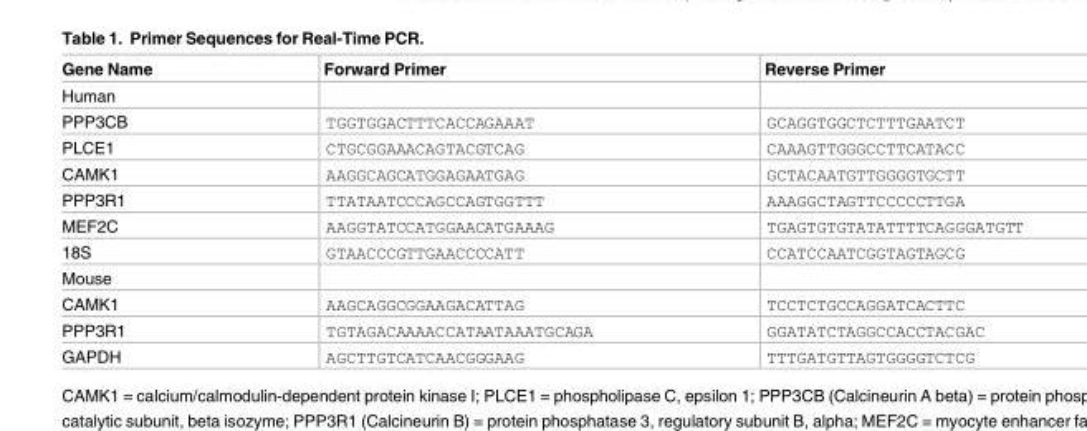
<table><thead><tr><td>Gene Name</td><td>Forward Primer</td><td>Reverse Primer</td></tr></thead><tbody><tr><td colspan="3">Human</td></tr><tr><td>PPP3CB</td><td>TGGTGGACTTTCACCAGAAAT</td><td>GCAGGTGGCTCTTTGAATCT</td></tr><tr><td>PLCE1</td><td>CTGCGGAAACAGTACGTCAG</td><td>CAAAGTTGGGCCTTCATACC</td></tr><tr><td>CAMK1</td><td>AAGGCAGCATGGAGAATGAG</td><td>GCTACAATGTTGGGGTGCTT</td></tr><tr><td>PPP3R1</td><td>TTATAATCCCAGCCAGTGGTTT</td><td>AAAGGCTAGTTCCCCCTTGA</td></tr><tr><td>MEF2C</td><td>AAGGTATCCATGGAACATGAAAG</td><td>TGAGTGTGTATATTTTCAGGGATGTT</td></tr><tr><td>18S</td><td>GTAACCCGTTGAACCCCATT</td><td>CCATCCAATCGGTAGTAGCG</td></tr><tr><td colspan="3">Mouse</td></tr><tr><td>CAMK1</td><td>AAGCAGGCGGAAGACATTAG</td><td>TCCTCTGCCAGGATCACTTC</td></tr><tr><td>PPP3R1</td><td>TGTAGACAAAACCATAATAAATGCAGA</td><td>GGATATCTAGGCCACCTACGAC</td></tr><tr><td>GAPDH</td><td>AGCTTGTCATCAACGGGAAG</td><td>TTTGATGTTAGTGGGGTCTCG</td></tr></tbody></table>